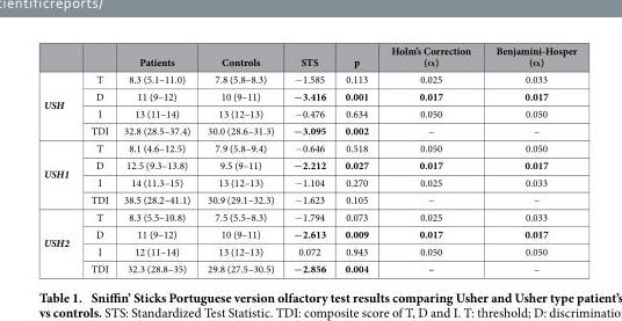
<table><thead><tr><td></td><td></td><td>Patients</td><td>Controls</td><td>STS</td><td>p</td><td>Holm’s Correction (α)</td><td>Benjamini-Hosper (α)</td></tr></thead><tbody><tr><td rowspan="4">USH</td><td>T</td><td>8.3 (5.1–11.0)</td><td>7.8 (5.8–8.3)</td><td>− 1.585</td><td>0.113</td><td>0.025</td><td>0.033</td></tr><tr><td>D</td><td>11 (9–12)</td><td>10 (9–11)</td><td>−3.416</td><td>0.001</td><td>0.017</td><td>0.017</td></tr><tr><td>I</td><td>13 (11–14)</td><td>13 (12–13)</td><td>− 0.476</td><td>0.634</td><td>0.050</td><td>0.050</td></tr><tr><td>TDI</td><td>32.8 (28.5–37.4)</td><td>30.0 (28.6–31.3)</td><td>−3.095</td><td>0.002</td><td>–</td><td>–</td></tr><tr><td rowspan="4">USH1</td><td>T</td><td>8.1 (4.6–12.5)</td><td>7.9 (5.8–9.4)</td><td>− 0.646</td><td>0.518</td><td>0.050</td><td>0.050</td></tr><tr><td>D</td><td>12.5 (9.3–13.8)</td><td>9.5 (9–11)</td><td>−2.212</td><td>0.027</td><td>0.017</td><td>0.017</td></tr><tr><td>I</td><td>14 (11.3–15)</td><td>13 (12–13)</td><td>− 1.104</td><td>0.270</td><td>0.025</td><td>0.033</td></tr><tr><td>TDI</td><td>38.5 (28.2–41.1)</td><td>30.9 (29.1–32.3)</td><td>− 1.623</td><td>0.105</td><td>–</td><td>–</td></tr><tr><td rowspan="4">USH2</td><td>T</td><td>8.3 (5.5–10.8)</td><td>7.5 (5.5–8.3)</td><td>− 1.794</td><td>0.073</td><td>0.025</td><td>0.033</td></tr><tr><td>D</td><td>11 (9–12)</td><td>10 (9–11)</td><td>−2.613</td><td>0.009</td><td>0.017</td><td>0.017</td></tr><tr><td>I</td><td>12 (11–14)</td><td>13 (12–13)</td><td>0.072</td><td>0.943</td><td>0.050</td><td>0.050</td></tr><tr><td>TDI</td><td>32.3 (28.8–35)</td><td>29.8 (27.5–30.5)</td><td>−2.856</td><td>0.004</td><td>–</td><td>–</td></tr></tbody></table>